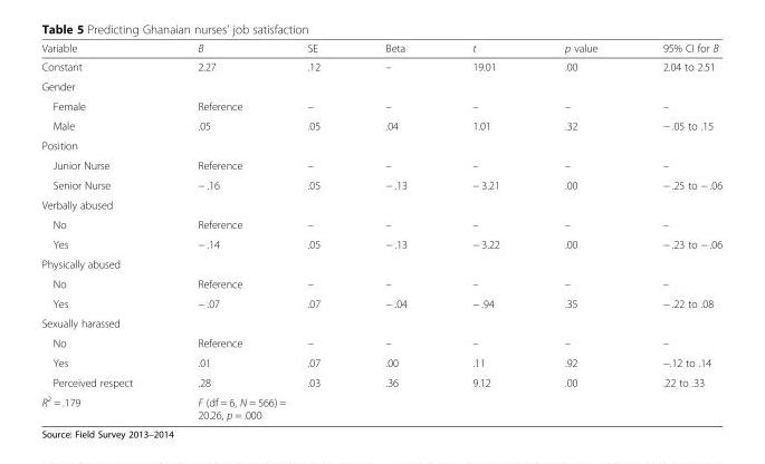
<table><thead><tr><td>Variable</td><td>B</td><td>SE</td><td>Beta</td><td>t</td><td>p value</td><td>95% CI for B</td></tr></thead><tbody><tr><td>Constant</td><td>2.27</td><td>.12</td><td>–</td><td>19.01</td><td>.00</td><td>2.04 to 2.51</td></tr><tr><td colspan="7">Gender</td></tr><tr><td>Female</td><td>Reference</td><td>–</td><td>–</td><td>–</td><td>–</td><td>–</td></tr><tr><td>Male</td><td>.05</td><td>.05</td><td>.04</td><td>1.01</td><td>.32</td><td>− .05 to .15</td></tr><tr><td colspan="7">Position</td></tr><tr><td>Junior Nurse</td><td>Reference</td><td>–</td><td>–</td><td>–</td><td>–</td><td>–</td></tr><tr><td>Senior Nurse</td><td>− .16</td><td>.05</td><td>− .13</td><td>− 3.21</td><td>.00</td><td>− .25 to − .06</td></tr><tr><td colspan="7">Verbally abused</td></tr><tr><td>No</td><td>Reference</td><td>–</td><td>–</td><td>–</td><td>–</td><td>–</td></tr><tr><td>Yes</td><td>− .14</td><td>.05</td><td>− .13</td><td>− 3.22</td><td>.00</td><td>− .23 to − .06</td></tr><tr><td colspan="7">Physically abused</td></tr><tr><td>No</td><td>Reference</td><td>–</td><td>–</td><td>–</td><td>–</td><td>–</td></tr><tr><td>Yes</td><td>− .07</td><td>.07</td><td>− .04</td><td>− .94</td><td>.35</td><td>− .22 to .08</td></tr><tr><td colspan="7">Sexually harassed</td></tr><tr><td>No</td><td>Reference</td><td>–</td><td>–</td><td>–</td><td>–</td><td>–</td></tr><tr><td>Yes</td><td>.01</td><td>.07</td><td>.00</td><td>.11</td><td>.92</td><td>−.12 to .14</td></tr><tr><td>Perceived respect</td><td>.28</td><td>.03</td><td>.36</td><td>9.12</td><td>.00</td><td>.22 to .33</td></tr><tr><td>R<sup>2</sup> = .179</td><td colspan="6">F (df = 6, N = 566) = 20.26, p = .000</td></tr></tbody></table>